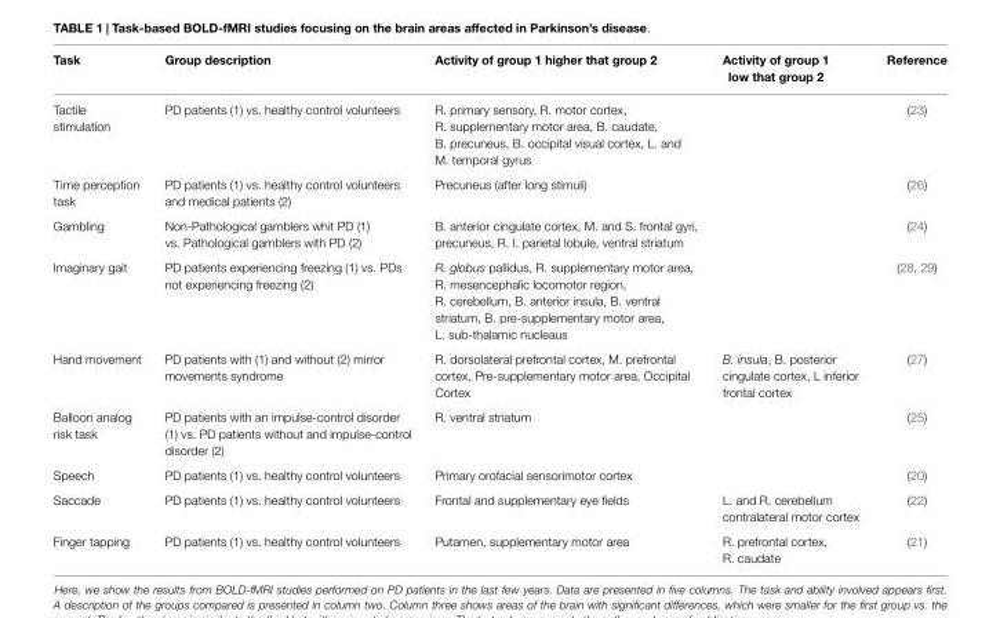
<table><thead><tr><td>Task</td><td>Group description</td><td>Activity of group 1 higher that group 2</td><td>Activity of group 1 low that group 2</td><td>Reference</td></tr></thead><tbody><tr><td>Tactile stimulation</td><td>PD patients (1) vs. healthy control volunteers</td><td>R. primary sensory, R. motor cortex, R. supplementary motor area, B. caudate, B. precuneus, B. occipital visual cortex, L. and M. temporal gyrus</td><td></td><td>(23)</td></tr><tr><td>Time perception task</td><td>PD patients (1) vs. healthy control volunteers and medical patients (2)</td><td>Precuneus (after long stimuli)</td><td></td><td>(26)</td></tr><tr><td>Gambling</td><td>Non-Pathological gamblers whit PD (1) vs. Pathological gamblers with PD (2)</td><td>B. anterior cingulate cortex, M. and S. frontal gyri, precuneus, R. I. parietal lobule, ventral striatum</td><td></td><td>(24)</td></tr><tr><td>Imaginary gait</td><td>PD patients experiencing freezing (1) vs. PDs not experiencing freezing (2)</td><td>R. globus pallidus, R. supplementary motor area, R. mesencephalic locomotor region, R. cerebellum, B. anterior insula, B. ventral striatum, B. pre-supplementary motor area, L. sub-thalamic nucleaus</td><td></td><td>(28, 29)</td></tr><tr><td>Hand movement</td><td>PD patients with (1) and without (2) mirror movements syndrome</td><td>R. dorsolateral prefrontal cortex, M. prefrontal cortex, Pre-supplementary motor area, Occipital Cortex</td><td>B. insula, B. posterior cingulate cortex, L inferior frontal cortex</td><td>(27)</td></tr><tr><td>Balloon analog risk task</td><td>PD patients with an impulse-control disorder (1) vs. PD patients without and impulse-control disorder (2)</td><td>R. ventral striatum</td><td></td><td>(25)</td></tr><tr><td>Speech</td><td>PD patients (1) vs. healthy control volunteers</td><td>Primary orofacial sensorimotor cortex</td><td></td><td>(20)</td></tr><tr><td>Saccade</td><td>PD patients (1) vs. healthy control volunteers</td><td>Frontal and supplementary eye fields</td><td>L. and R. cerebellum contralateral motor cortex</td><td>(22)</td></tr><tr><td>Finger tapping</td><td>PD patients (1) vs. healthy control volunteers</td><td>Putamen, supplementary motor area</td><td>R. prefrontal cortex, R. caudate</td><td>(21)</td></tr></tbody></table>